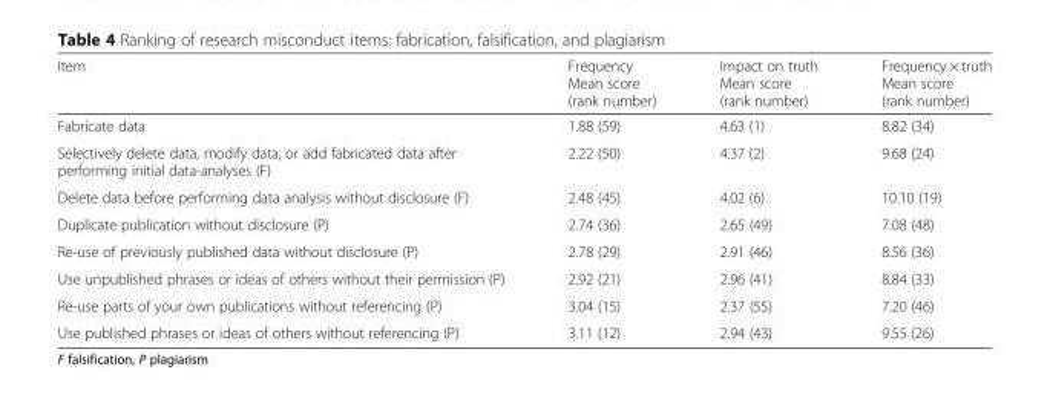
<table><thead><tr><td>Item</td><td>Frequency Mean score (rank number)</td><td>Impact on truth Mean score (rank number)</td><td>Frequency × truth Mean score (rank number)</td></tr></thead><tbody><tr><td>Fabricate data</td><td>1.88 (59)</td><td>4.63 (1)</td><td>8.82 (34)</td></tr><tr><td>Selectively delete data, modify data, or add fabricated data after performing initial data-analyses (F)</td><td>2.22 (50)</td><td>4.37 (2)</td><td>9.68 (24)</td></tr><tr><td>Delete data before performing data analysis without disclosure (F)</td><td>2.48 (45)</td><td>4.02 (6)</td><td>10.10 (19)</td></tr><tr><td>Duplicate publication without disclosure (P)</td><td>2.74 (36)</td><td>2.65 (49)</td><td>7.08 (48)</td></tr><tr><td>Re-use of previously published data without disclosure (P)</td><td>2.78 (29)</td><td>2.91 (46)</td><td>8.56 (36)</td></tr><tr><td>Use unpublished phrases or ideas of others without their permission (P)</td><td>2.92 (21)</td><td>2.96 (41)</td><td>8.84 (33)</td></tr><tr><td>Re-use parts of your own publications without referencing (P)</td><td>3.04 (15)</td><td>2.37 (55)</td><td>7.20 (46)</td></tr><tr><td>Use published phrases or ideas of others without referencing (P)</td><td>3.11 (12)</td><td>2.94 (43)</td><td>9.55 (26)</td></tr></tbody></table>